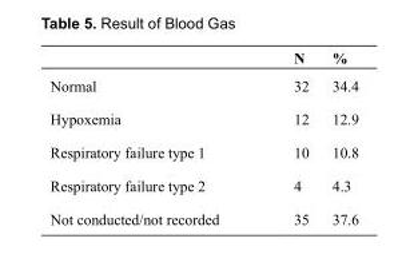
<table><thead><tr><td></td><td>N</td><td>%</td></tr></thead><tbody><tr><td>Normal</td><td>32</td><td>34.4</td></tr><tr><td>Hypoxemia</td><td>12</td><td>12.9</td></tr><tr><td>Respiratory failure type 1</td><td>10</td><td>10.8</td></tr><tr><td>Respiratory failure type 2</td><td>4</td><td>4.3</td></tr><tr><td>Not conducted/not recorded</td><td>35</td><td>37.6</td></tr></tbody></table>